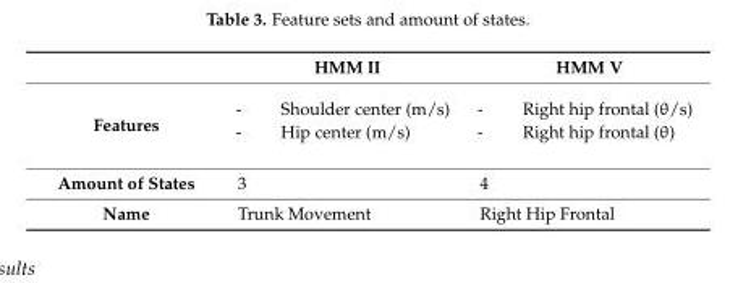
<table><thead><tr><td></td><td>HMM II</td><td>HMM V</td></tr></thead><tbody><tr><td>Features</td><td>- Shoulder center (m/s) - Hip center (m/s)</td><td>- Right hip frontal (θ/s) - Right hip frontal (θ)</td></tr><tr><td>Amount of States</td><td>3</td><td>4</td></tr><tr><td>Name</td><td>Trunk Movement</td><td>Right Hip Frontal</td></tr></tbody></table>